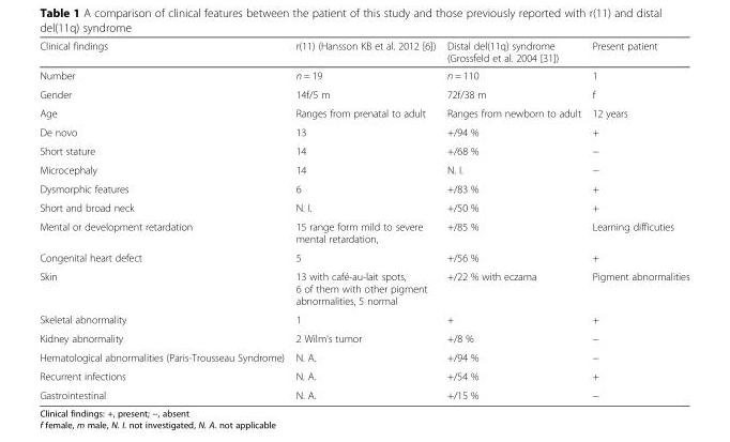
<table><thead><tr><td>Clinical findings</td><td>r(11) (Hansson KB et al. 2012 [6])</td><td>Distal del(11q) syndrome (Grossfeld et al. 2004 [31])</td><td>Present patient</td></tr></thead><tbody><tr><td>Number</td><td>n = 19</td><td>n = 110</td><td>1</td></tr><tr><td>Gender</td><td>14f/5 m</td><td>72f/38 m</td><td>f</td></tr><tr><td>Age</td><td>Ranges from prenatal to adult</td><td>Ranges from newborn to adult</td><td>12 years</td></tr><tr><td>De novo</td><td>13</td><td>+/94 %</td><td>+</td></tr><tr><td>Short stature</td><td>14</td><td>+/68 %</td><td>−</td></tr><tr><td>Microcephaly</td><td>14</td><td>N. I.</td><td>−</td></tr><tr><td>Dysmorphic features</td><td>6</td><td>+/83 %</td><td>+</td></tr><tr><td>Short and broad neck</td><td>N. I.</td><td>+/50 %</td><td>+</td></tr><tr><td>Mental or development retardation</td><td>15 range form mild to severe mental retardation,</td><td>+/85 %</td><td>Learning difficuties</td></tr><tr><td>Congenital heart defect</td><td>5</td><td>+/56 %</td><td>+</td></tr><tr><td>Skin</td><td>13 with café-au-lait spots, 6 of them with other pigment abnormalities, 5 normal</td><td>+/22 % with eczama</td><td>Pigment abnormalities</td></tr><tr><td>Skeletal abnormality</td><td>1</td><td>+</td><td>+</td></tr><tr><td>Kidney abnormality</td><td>2 Wilm’s tumor</td><td>+/8 %</td><td>−</td></tr><tr><td>Hematological abnormalities (Paris-Trousseau Syndrome)</td><td>N. A.</td><td>+/94 %</td><td>−</td></tr><tr><td>Recurrent infections</td><td>N. A.</td><td>+/54 %</td><td>+</td></tr><tr><td>Gastrointestinal</td><td>N. A.</td><td>+/15 %</td><td>−</td></tr></tbody></table>